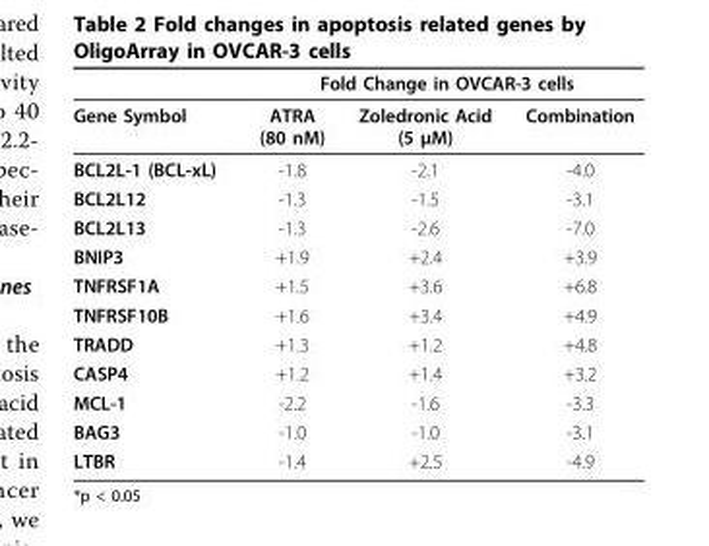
<table><thead><tr><td rowspan="2">Gene Symbol</td><td colspan="3">Fold Change in OVCAR-3 cells</td></tr><tr><td>ATRA (80 nM)</td><td>Zoledronic Acid (5 μM)</td><td>Combination</td></tr></thead><tbody><tr><td>BCL2L-1 (BCL-xL)</td><td>-1.8</td><td>-2.1</td><td>-4.0</td></tr><tr><td>BCL2L12</td><td>-1.3</td><td>-1.5</td><td>-3.1</td></tr><tr><td>BCL2L13</td><td>-1.3</td><td>-2.6</td><td>-7.0</td></tr><tr><td>BNIP3</td><td>+1.9</td><td>+2.4</td><td>+3.9</td></tr><tr><td>TNFRSF1A</td><td>+1.5</td><td>+3.6</td><td>+6.8</td></tr><tr><td>TNFRSF10B</td><td>+1.6</td><td>+3.4</td><td>+4.9</td></tr><tr><td>TRADD</td><td>+1.3</td><td>+1.2</td><td>+4.8</td></tr><tr><td>CASP4</td><td>+1.2</td><td>+1.4</td><td>+3.2</td></tr><tr><td>MCL-1</td><td>-2.2</td><td>-1.6</td><td>-3.3</td></tr><tr><td>BAG3</td><td>-1.0</td><td>-1.0</td><td>-3.1</td></tr><tr><td>LTBR</td><td>-1.4</td><td>+2.5</td><td>-4.9</td></tr></tbody></table>